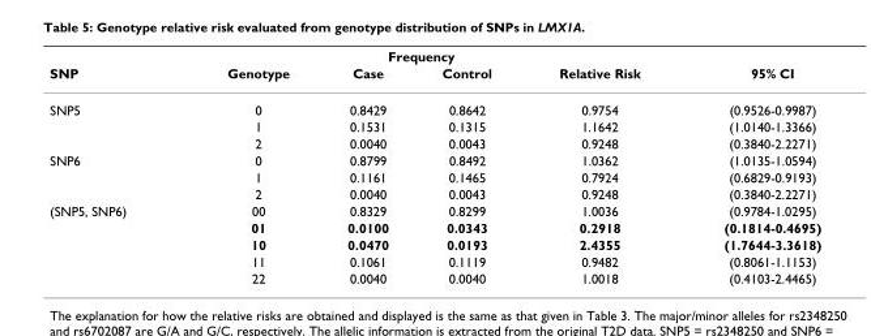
<table><thead><tr><td rowspan="2">SNP</td><td rowspan="2">Genotype</td><td colspan="2">Frequency</td><td rowspan="2">Relative Risk</td><td rowspan="2">95% CI</td></tr><tr><td>Case</td><td>Control</td></tr></thead><tbody><tr><td rowspan="3">SNP5</td><td>0</td><td>0.8429</td><td>0.8642</td><td>0.9754</td><td>(0.9526-0.9987)</td></tr><tr><td>1</td><td>0.1531</td><td>0.1315</td><td>1.1642</td><td>(1.0140-1.3366)</td></tr><tr><td>2</td><td>0.0040</td><td>0.0043</td><td>0.9248</td><td>(0.3840-2.2271)</td></tr><tr><td rowspan="3">SNP6</td><td>0</td><td>0.8799</td><td>0.8492</td><td>1.0362</td><td>(1.0135-1.0594)</td></tr><tr><td>1</td><td>0.1161</td><td>0.1465</td><td>0.7924</td><td>(0.6829-0.9193)</td></tr><tr><td>2</td><td>0.0040</td><td>0.0043</td><td>0.9248</td><td>(0.3840-2.2271)</td></tr><tr><td rowspan="5">(SNP5, SNP6)</td><td>00</td><td>0.8329</td><td>0.8299</td><td>1.0036</td><td>(0.9784-1.0295)</td></tr><tr><td>01</td><td>0.0100</td><td>0.0343</td><td>0.2918</td><td>(0.1814-0.4695)</td></tr><tr><td>10</td><td>0.0470</td><td>0.0193</td><td>2.4355</td><td>(1.7644-3.3618)</td></tr><tr><td>11</td><td>0.1061</td><td>0.1119</td><td>0.9482</td><td>(0.8061-1.1153)</td></tr><tr><td>22</td><td>0.0040</td><td>0.0040</td><td>1.0018</td><td>(0.4103-2.4465)</td></tr></tbody></table>